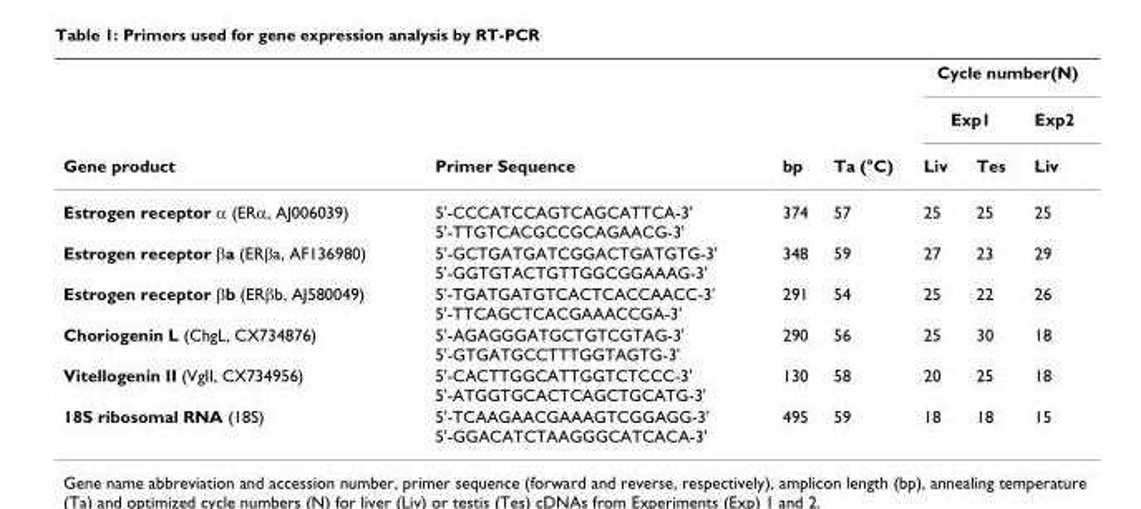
<table><thead><tr><td rowspan="3">Gene product</td><td rowspan="3">Primer Sequence</td><td rowspan="3">bp</td><td rowspan="3">Ta (°C)</td><td colspan="3">Cycle number(N)</td></tr><tr><td colspan="2">Exp1</td><td rowspan="2">Exp2 Liv</td></tr><tr><td>Liv</td><td>Tes</td></tr></thead><tbody><tr><td>Estrogen receptor α (ERα, AJ006039)</td><td>5&#x27;-CCCATCCAGTCAGCATTCA-3&#x27; 5&#x27;-TTGTCACGCCGCAGAACG-3&#x27;</td><td>374</td><td>57</td><td>25</td><td>25</td><td>25</td></tr><tr><td>Estrogen receptor βa (ERβa, AF136980)</td><td>5&#x27;-GCTGATGATCGGACTGATGTG-3&#x27; 5&#x27;-GGTGTACTGTTGGCGGAAAG-3&#x27;</td><td>348</td><td>59</td><td>27</td><td>23</td><td>29</td></tr><tr><td>Estrogen receptor βb (ERβb, AJ580049)</td><td>5&#x27;-TGATGATGTCACTCACCAACC-3&#x27; 5&#x27;-TTCAGCTCACGAAACCGA-3&#x27;</td><td>291</td><td>54</td><td>25</td><td>22</td><td>26</td></tr><tr><td>Choriogenin L (ChgL, CX734876)</td><td>5&#x27;-AGAGGGATGCTGTCGTAG-3&#x27; 5&#x27;-GTGATGCCTTTGGTAGTG-3&#x27;</td><td>290</td><td>56</td><td>25</td><td>30</td><td>18</td></tr><tr><td>Vitellogenin II (VgII, CX734956)</td><td>5&#x27;-CACTTGGCATTGGTCTCCC-3&#x27; 5&#x27;-ATGGTGCACTCAGCTGCATG-3&#x27;</td><td>130</td><td>58</td><td>20</td><td>25</td><td>18</td></tr><tr><td>18S ribosomal RNA (18S)</td><td>5&#x27;-TCAAGAACGAAAGTCGGAGG-3&#x27; 5&#x27;-GGACATCTAAGGGCATCACA-3&#x27;</td><td>495</td><td>59</td><td>18</td><td>18</td><td>15</td></tr></tbody></table>